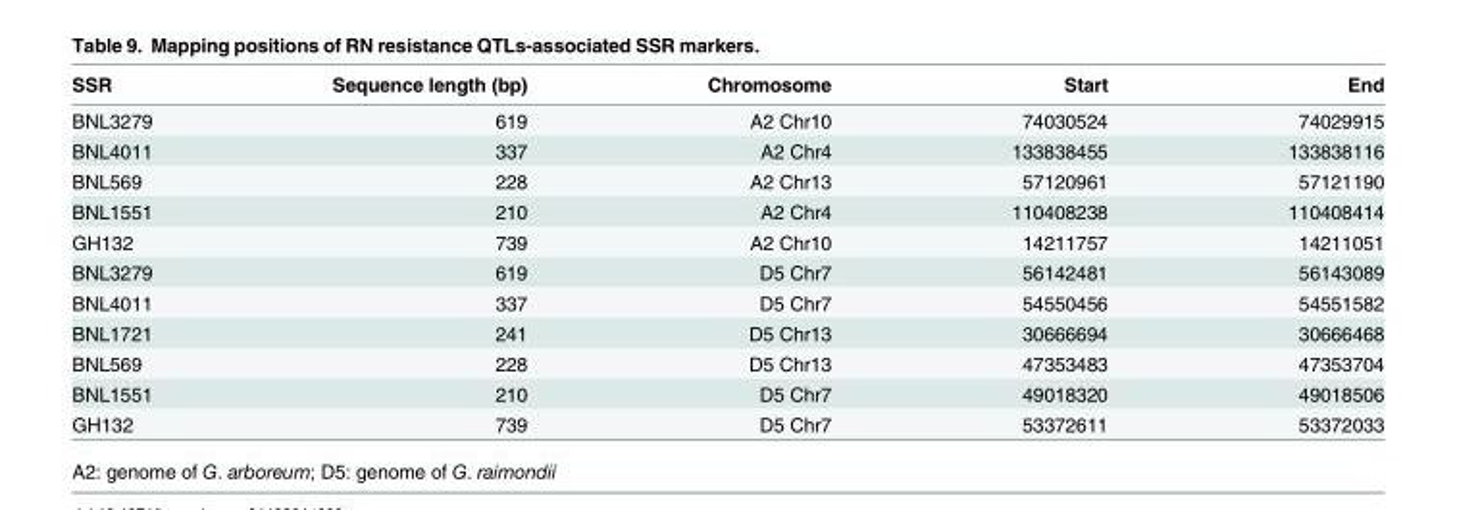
<table><thead><tr><td>SSR</td><td>Sequence length (bp)</td><td>Chromosome</td><td>Start</td><td>End</td></tr></thead><tbody><tr><td>BNL3279</td><td>619</td><td>A2 Chr10</td><td>74030524</td><td>74029915</td></tr><tr><td>BNL4011</td><td>337</td><td>A2 Chr4</td><td>133838455</td><td>133838116</td></tr><tr><td>BNL569</td><td>228</td><td>A2 Chr13</td><td>57120961</td><td>57121190</td></tr><tr><td>BNL1551</td><td>210</td><td>A2 Chr4</td><td>110408238</td><td>110408414</td></tr><tr><td>GH132</td><td>739</td><td>A2 Chr10</td><td>14211757</td><td>14211051</td></tr><tr><td>BNL3279</td><td>619</td><td>D5 Chr7</td><td>56142481</td><td>56143089</td></tr><tr><td>BNL4011</td><td>337</td><td>D5 Chr7</td><td>54550456</td><td>54551582</td></tr><tr><td>BNL1721</td><td>241</td><td>D5 Chr13</td><td>30666694</td><td>30666468</td></tr><tr><td>BNL569</td><td>228</td><td>D5 Chr13</td><td>47353483</td><td>47353704</td></tr><tr><td>BNL1551</td><td>210</td><td>D5 Chr7</td><td>49018320</td><td>49018506</td></tr><tr><td>GH132</td><td>739</td><td>D5 Chr7</td><td>53372611</td><td>53372033</td></tr></tbody></table>